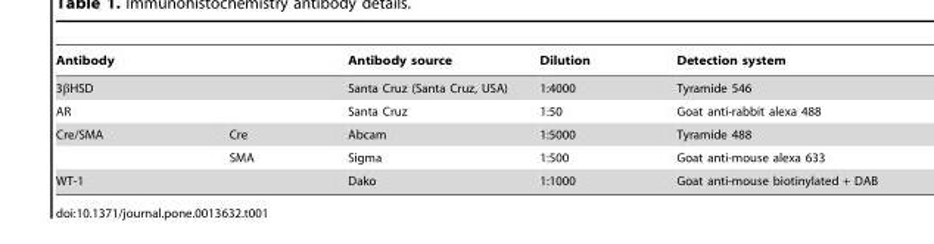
<table><thead><tr><td rowspan="3" colspan="2">Antibody 3βHSD AR</td><td rowspan="4">Antibody source Santa Cruz (Santa Cruz, USA) Santa Cruz Abcam</td><td rowspan="4">Dilution 1:4000 1:50 1:5000</td><td rowspan="4">Detection system Tyramide 546 Goat anti-rabbit alexa 488 Tyramide 488</td></tr><tr></tr><tr></tr><tr><td>Cre/SMA</td><td>Cre</td></tr></thead><tbody><tr><td></td><td>SMA</td><td>Sigma</td><td>1:500</td><td>Goat anti-mouse alexa 633</td></tr><tr><td colspan="2">WT-1</td><td>Dako</td><td>1:1000</td><td>Goat anti-mouse biotinylated + DAB</td></tr></tbody></table>